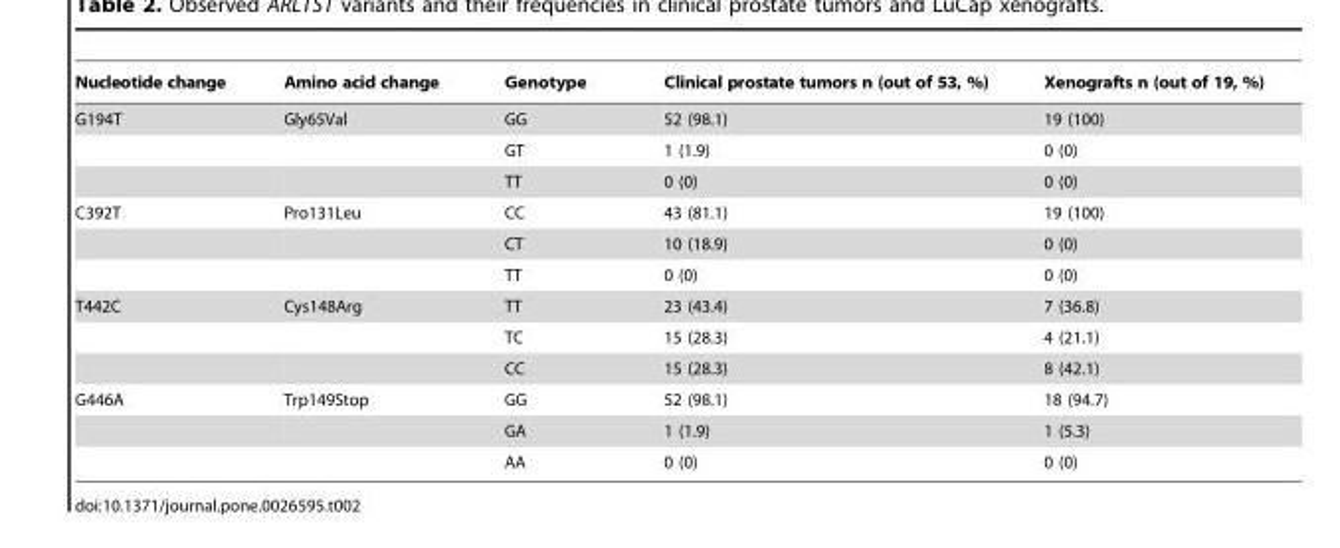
<table><thead><tr><td>Nucleotide change</td><td>Amino acid change</td><td>Genotype</td><td>Clinical prostate tumors n (out of 53, %)</td><td>Xenografts n (out of 19, %)</td></tr></thead><tbody><tr><td rowspan="3">G194T</td><td>Gly65Val</td><td>GG</td><td>52 (98.1)</td><td>19 (100)</td></tr><tr><td></td><td>GT</td><td>1 (1.9)</td><td>0 (0)</td></tr><tr><td></td><td>TT</td><td>0 (0)</td><td>0 (0)</td></tr><tr><td rowspan="3">C392T</td><td>Pro131Leu</td><td>CC</td><td>43 (81.1)</td><td>19 (100)</td></tr><tr><td></td><td>CT</td><td>10 (18.9)</td><td>0 (0)</td></tr><tr><td></td><td>TT</td><td>0 (0)</td><td>0 (0)</td></tr><tr><td rowspan="3">T442C</td><td>Cys148Arg</td><td>TT</td><td>23 (43.4)</td><td>7 (36.8)</td></tr><tr><td></td><td>TC</td><td>15 (28.3)</td><td>4 (21.1)</td></tr><tr><td></td><td>CC</td><td>15 (28.3)</td><td>8 (42.1)</td></tr><tr><td rowspan="3">G446A</td><td>Trp149Stop</td><td>GG</td><td>52 (98.1)</td><td>18 (94.7)</td></tr><tr><td></td><td>GA</td><td>1 (1.9)</td><td>1 (5.3)</td></tr><tr><td></td><td>AA</td><td>0 (0)</td><td>0 (0)</td></tr></tbody></table>